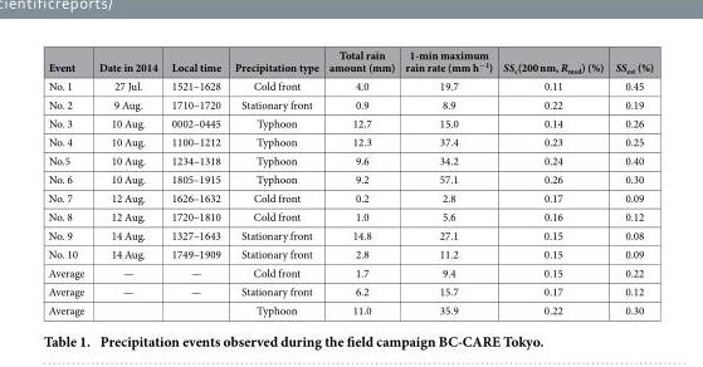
<table><thead><tr><td>Event</td><td>Date in 2014</td><td>Local time</td><td>Precipitation type</td><td>Total rain amount (mm)</td><td>1-min maximum rain rate (mm h<sup>−1</sup>)</td><td>SS<sub>c</sub>(200 nm, R<sub>med</sub>) (%)</td><td>SS<sub>est</sub> (%)</td></tr></thead><tbody><tr><td>No. 1</td><td>27 Jul.</td><td>1521–1628</td><td>Cold front</td><td>4.0</td><td>19.7</td><td>0.11</td><td>0.45</td></tr><tr><td>No. 2</td><td>9 Aug.</td><td>1710–1720</td><td>Stationary front</td><td>0.9</td><td>8.9</td><td>0.22</td><td>0.19</td></tr><tr><td>No. 3</td><td>10 Aug.</td><td>0002–0445</td><td>Typhoon</td><td>12.7</td><td>15.0</td><td>0.14</td><td>0.26</td></tr><tr><td>No. 4</td><td>10 Aug.</td><td>1100–1212</td><td>Typhoon</td><td>12.3</td><td>37.4</td><td>0.23</td><td>0.25</td></tr><tr><td>No.5</td><td>10 Aug.</td><td>1234–1318</td><td>Typhoon</td><td>9.6</td><td>34.2</td><td>0.24</td><td>0.40</td></tr><tr><td>No. 6</td><td>10 Aug.</td><td>1805–1915</td><td>Typhoon</td><td>9.2</td><td>57.1</td><td>0.26</td><td>0.30</td></tr><tr><td>No. 7</td><td>12 Aug.</td><td>1626–1632</td><td>Cold front</td><td>0.2</td><td>2.8</td><td>0.17</td><td>0.09</td></tr><tr><td>No. 8</td><td>12 Aug.</td><td>1720–1810</td><td>Cold front</td><td>1.0</td><td>5.6</td><td>0.16</td><td>0.12</td></tr><tr><td>No. 9</td><td>14 Aug.</td><td>1327–1643</td><td>Stationary front</td><td>14.8</td><td>27.1</td><td>0.15</td><td>0.08</td></tr><tr><td>No. 10</td><td>14 Aug.</td><td>1749–1909</td><td>Stationary front</td><td>2.8</td><td>11.2</td><td>0.15</td><td>0.09</td></tr><tr><td>Average</td><td>—</td><td>—</td><td>Cold front</td><td>1.7</td><td>9.4</td><td>0.15</td><td>0.22</td></tr><tr><td>Average</td><td>—</td><td>—</td><td>Stationary front</td><td>6.2</td><td>15.7</td><td>0.17</td><td>0.12</td></tr><tr><td>Average</td><td></td><td></td><td>Typhoon</td><td>11.0</td><td>35.9</td><td>0.22</td><td>0.30</td></tr></tbody></table>